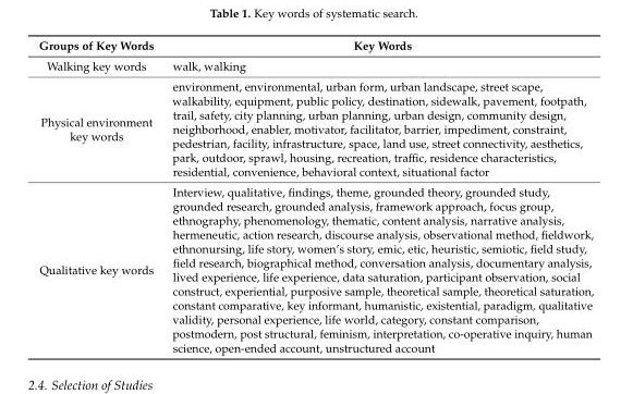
<table><thead><tr><td>Groups of Key Words</td><td>Key Words</td></tr></thead><tbody><tr><td>Walking key words</td><td>walk, walking</td></tr><tr><td>Physical environment key words</td><td>environment, environmental, urban form, urban landscape, street scape, walkability, equipment, public policy, destination, sidewalk, pavement, footpath, trail, safety, city planning, urban planning, urban design, community design, neighborhood, enabler, motivator, facilitator, barrier, impediment, constraint, pedestrian, facility, infrastructure, space, land use, street connectivity, aesthetics, park, outdoor, sprawl, housing, recreation, traffic, residence characteristics, residential, convenience, behavioral context, situational factor</td></tr><tr><td>Qualitative key words</td><td>Interview, qualitative, findings, theme, grounded theory, grounded study, grounded research, grounded analysis, framework approach, focus group, ethnography, phenomenology, thematic, content analysis, narrative analysis, hermeneutic, action research, discourse analysis, observational method, fieldwork, ethnonursing, life story, women’s story, emic, etic, heuristic, semiotic, field study, field research, biographical method, conversation analysis, documentary analysis, lived experience, life experience, data saturation, participant observation, social construct, experiential, purposive sample, theoretical sample, theoretical saturation, constant comparative, key informant, humanistic, existential, paradigm, qualitative validity, personal experience, life world, category, constant comparison, postmodern, post structural, feminism, interpretation, co-operative inquiry, human science, open-ended account, unstructured account</td></tr></tbody></table>